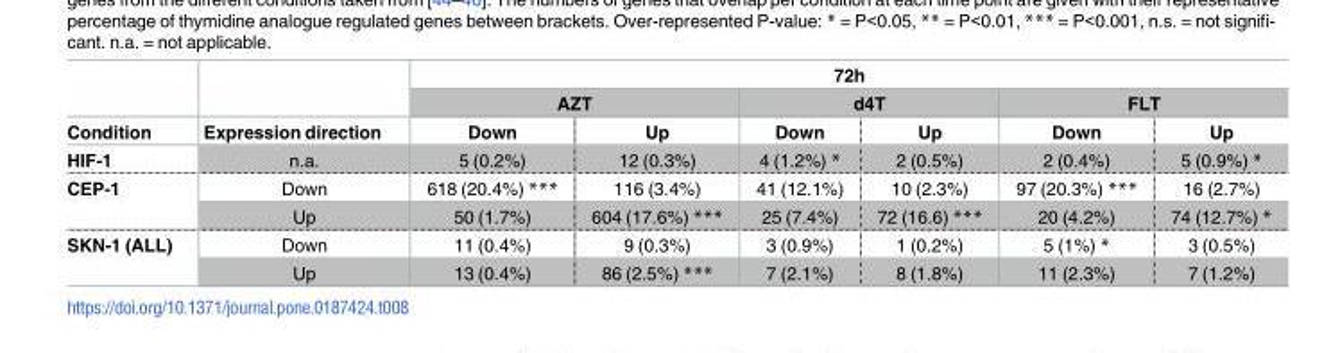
<table><thead><tr><td rowspan="3">Condition</td><td rowspan="3">Expression direction</td><td colspan="6">72h</td></tr><tr><td colspan="2">AZT</td><td colspan="2">d4T</td><td colspan="2">FLT</td></tr><tr><td>Down</td><td>Up</td><td>Down</td><td>Up</td><td>Down</td><td>Up</td></tr></thead><tbody><tr><td>HIF-1</td><td>n.a.</td><td>5 (0.2%)</td><td>12 (0.3%)</td><td>4 (1.2%) *</td><td>2 (0.5%)</td><td>2 (0.4%)</td><td>5 (0.9%) *</td></tr><tr><td rowspan="2">CEP-1</td><td>Down</td><td>618 (20.4%) ***</td><td>116 (3.4%)</td><td>41 (12.1%)</td><td>10 (2.3%)</td><td>97 (20.3%) ***</td><td>16 (2.7%)</td></tr><tr><td>Up</td><td>50 (1.7%)</td><td>604 (17.6%) ***</td><td>25 (7.4%)</td><td>72 (16.6) ***</td><td>20 (4.2%)</td><td>74 (12.7%) *</td></tr><tr><td rowspan="2">SKN-1 (ALL)</td><td>Down</td><td>11 (0.4%)</td><td>9 (0.3%)</td><td>3 (0.9%)</td><td>1 (0.2%)</td><td>5 (1%) *</td><td>3 (0.5%)</td></tr><tr><td>Up</td><td>13 (0.4%)</td><td>86 (2.5%) ***</td><td>7 (2.1%)</td><td>8 (1.8%)</td><td>11 (2.3%)</td><td>7 (1.2%)</td></tr></tbody></table>